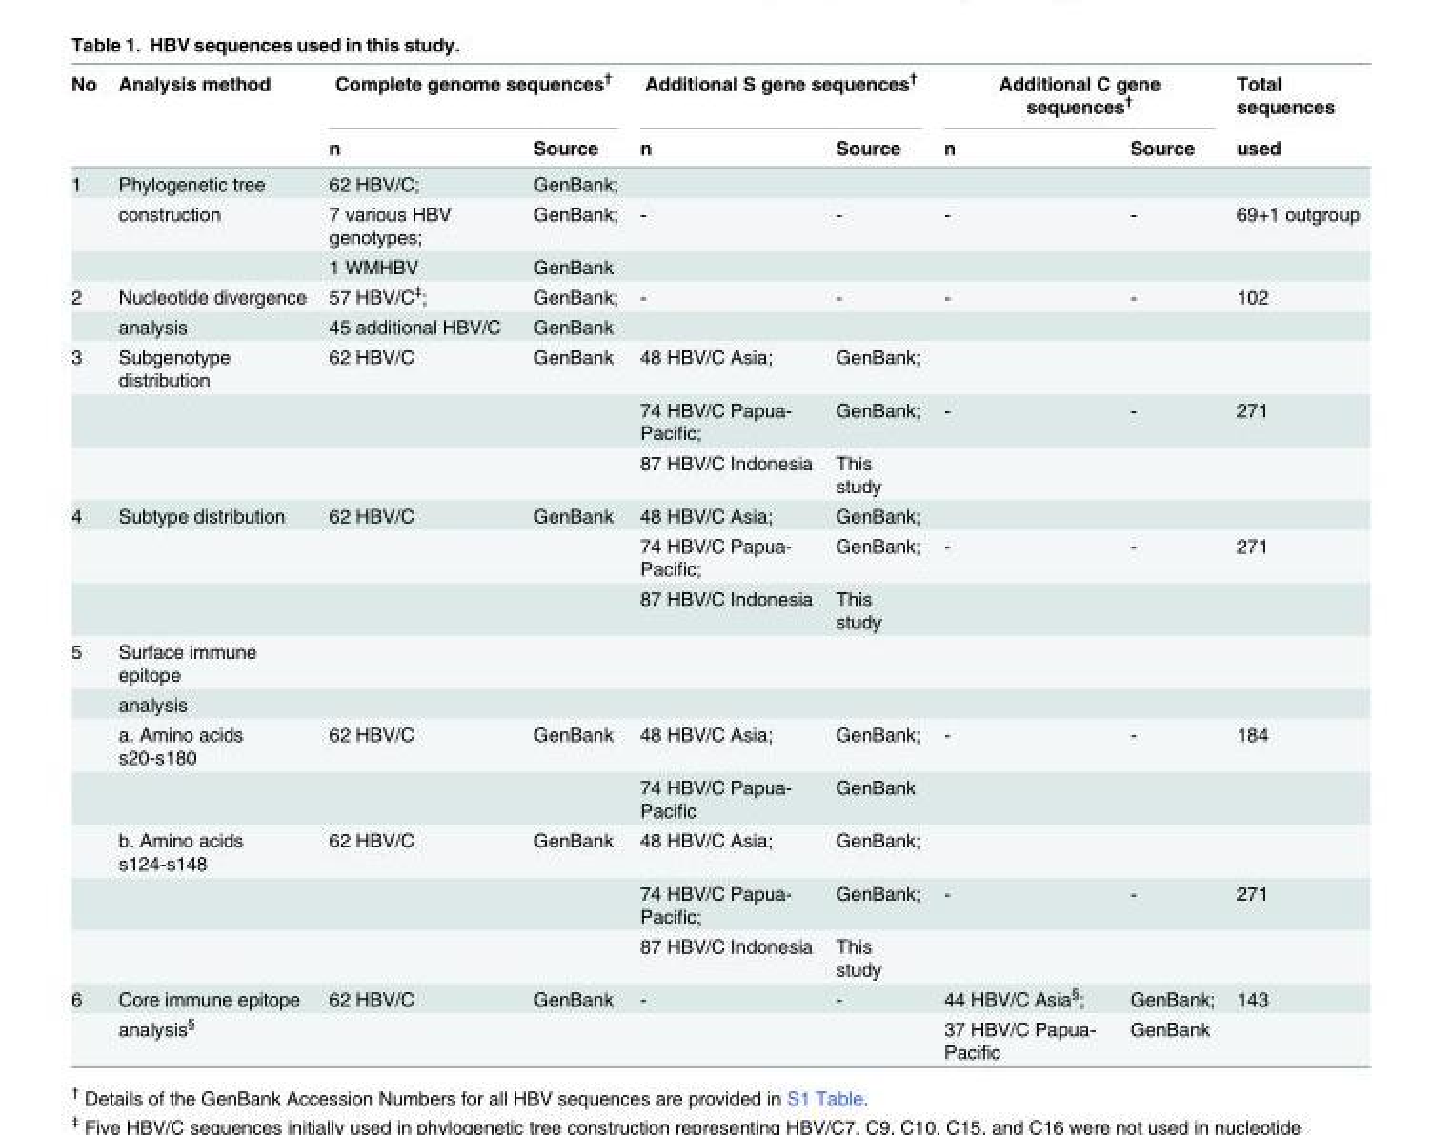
<table><thead><tr><td rowspan="2">No</td><td rowspan="2">Analysis method</td><td colspan="2">Complete genome sequences<sup>†</sup></td><td colspan="2">Additional S gene sequences<sup>†</sup></td><td colspan="2">Additional C gene sequences<sup>†</sup></td><td rowspan="2">Total sequences used</td></tr><tr><td>n</td><td>Source</td><td>n</td><td>Source</td><td>n</td><td>Source</td></tr></thead><tbody><tr><td rowspan="3">1</td><td>Phylogenetic tree</td><td>62 HBV/C;</td><td>GenBank;</td><td></td><td></td><td></td><td></td><td></td></tr><tr><td>construction</td><td>7 various HBV genotypes;</td><td>GenBank;</td><td>-</td><td>-</td><td>-</td><td>-</td><td>69+1 outgroup</td></tr><tr><td></td><td>1 WMHBV</td><td>GenBank</td><td></td><td></td><td></td><td></td><td></td></tr><tr><td rowspan="2">2</td><td>Nucleotide divergence</td><td>57 HBV/C<sup>‡</sup>;</td><td>GenBank;</td><td>-</td><td>-</td><td>-</td><td>-</td><td>102</td></tr><tr><td>analysis</td><td>45 additional HBV/C</td><td>GenBank</td><td></td><td></td><td></td><td></td><td></td></tr><tr><td rowspan="3">3</td><td>Subgenotype distribution</td><td>62 HBV/C</td><td>GenBank</td><td>48 HBV/C Asia;</td><td>GenBank;</td><td></td><td></td><td></td></tr><tr><td></td><td></td><td></td><td>74 HBV/C Papua- Pacific;</td><td>GenBank;</td><td>-</td><td>-</td><td>271</td></tr><tr><td></td><td></td><td></td><td>87 HBV/C Indonesia</td><td>This study</td><td></td><td></td><td></td></tr><tr><td rowspan="3">4</td><td>Subtype distribution</td><td>62 HBV/C</td><td>GenBank</td><td>48 HBV/C Asia;</td><td>GenBank;</td><td></td><td></td><td></td></tr><tr><td></td><td></td><td></td><td>74 HBV/C Papua- Pacific;</td><td>GenBank;</td><td>-</td><td>-</td><td>271</td></tr><tr><td></td><td></td><td></td><td>87 HBV/C Indonesia</td><td>This study</td><td></td><td></td><td></td></tr><tr><td rowspan="7">5</td><td>Surface immune epitope</td><td></td><td></td><td></td><td></td><td></td><td></td><td></td></tr><tr><td>analysis</td><td></td><td></td><td></td><td></td><td></td><td></td><td></td></tr><tr><td>a. Amino acids s20-s180</td><td>62 HBV/C</td><td>GenBank</td><td>48 HBV/C Asia;</td><td>GenBank;</td><td>-</td><td>-</td><td>184</td></tr><tr><td></td><td></td><td></td><td>74 HBV/C Papua- Pacific</td><td>GenBank</td><td></td><td></td><td></td></tr><tr><td>b. Amino acids s124-s148</td><td>62 HBV/C</td><td>GenBank</td><td>48 HBV/C Asia;</td><td>GenBank;</td><td></td><td></td><td></td></tr><tr><td></td><td></td><td></td><td>74 HBV/C Papua- Pacific;</td><td>GenBank;</td><td>-</td><td>-</td><td>271</td></tr><tr><td></td><td></td><td></td><td>87 HBV/C Indonesia</td><td>This study</td><td></td><td></td><td></td></tr><tr><td rowspan="2">6</td><td>Core immune epitope</td><td>62 HBV/C</td><td>GenBank</td><td>-</td><td>-</td><td>44 HBV/C Asia<sup>§</sup>;</td><td>GenBank;</td><td>143</td></tr><tr><td>analysis<sup>§</sup></td><td></td><td></td><td></td><td></td><td>37 HBV/C Papua- Pacific</td><td>GenBank</td><td></td></tr></tbody></table>